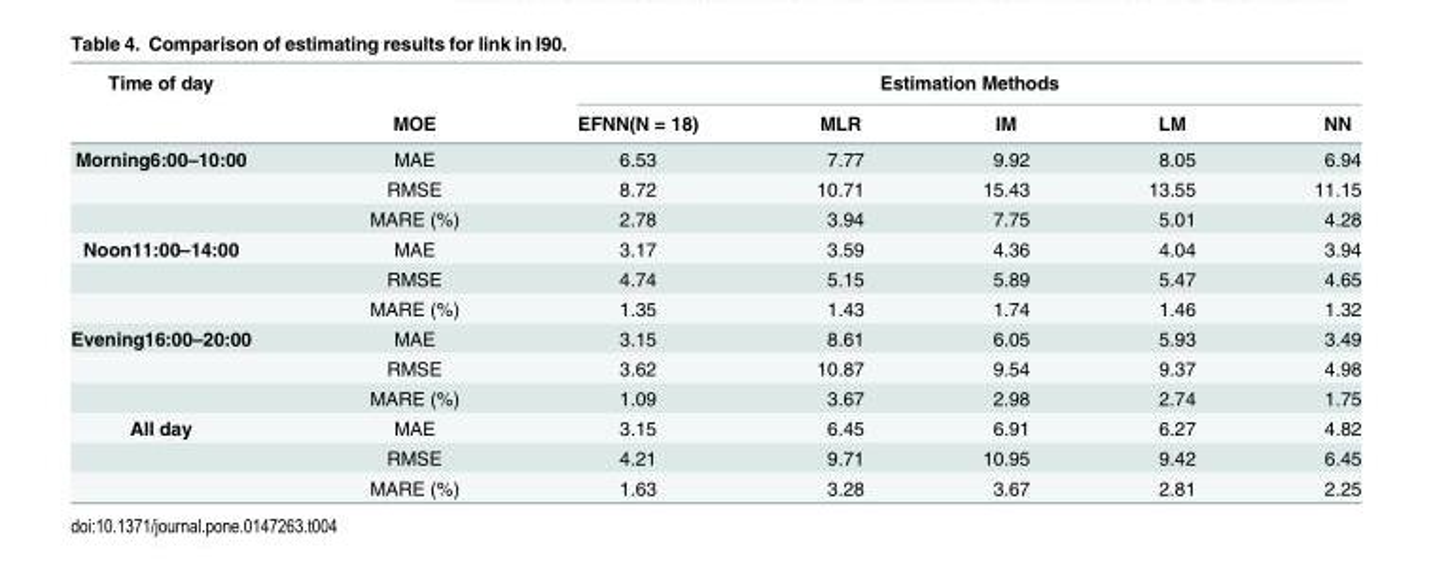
<table><thead><tr><td rowspan="2">Time of day</td><td rowspan="2">MOE</td><td colspan="5">Estimation Methods</td></tr><tr><td>EFNN(N = 18)</td><td>MLR</td><td>IM</td><td>LM</td><td>NN</td></tr></thead><tbody><tr><td rowspan="3">Morning6:00–10:00</td><td>MAE</td><td>6.53</td><td>7.77</td><td>9.92</td><td>8.05</td><td>6.94</td></tr><tr><td>RMSE</td><td>8.72</td><td>10.71</td><td>15.43</td><td>13.55</td><td>11.15</td></tr><tr><td>MARE (%)</td><td>2.78</td><td>3.94</td><td>7.75</td><td>5.01</td><td>4.28</td></tr><tr><td rowspan="3">Noon11:00–14:00</td><td>MAE</td><td>3.17</td><td>3.59</td><td>4.36</td><td>4.04</td><td>3.94</td></tr><tr><td>RMSE</td><td>4.74</td><td>5.15</td><td>5.89</td><td>5.47</td><td>4.65</td></tr><tr><td>MARE (%)</td><td>1.35</td><td>1.43</td><td>1.74</td><td>1.46</td><td>1.32</td></tr><tr><td rowspan="3">Evening16:00–20:00</td><td>MAE</td><td>3.15</td><td>8.61</td><td>6.05</td><td>5.93</td><td>3.49</td></tr><tr><td>RMSE</td><td>3.62</td><td>10.87</td><td>9.54</td><td>9.37</td><td>4.98</td></tr><tr><td>MARE (%)</td><td>1.09</td><td>3.67</td><td>2.98</td><td>2.74</td><td>1.75</td></tr><tr><td rowspan="3">All day</td><td>MAE</td><td>3.15</td><td>6.45</td><td>6.91</td><td>6.27</td><td>4.82</td></tr><tr><td>RMSE</td><td>4.21</td><td>9.71</td><td>10.95</td><td>9.42</td><td>6.45</td></tr><tr><td>MARE (%)</td><td>1.63</td><td>3.28</td><td>3.67</td><td>2.81</td><td>2.25</td></tr></tbody></table>